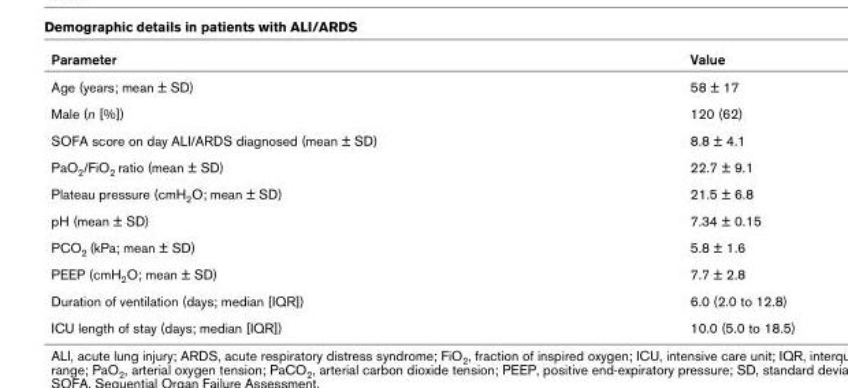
<table><thead><tr><td>Parameter</td><td>Value</td></tr></thead><tbody><tr><td>Age (years; mean ± SD)</td><td>58 ± 17</td></tr><tr><td>Male (n [%])</td><td>120 (62)</td></tr><tr><td>SOFA score on day ALI/ARDS diagnosed (mean ± SD)</td><td>8.8 ± 4.1</td></tr><tr><td>PaO<sub>2</sub>/FiO<sub>2</sub> ratio (mean ± SD)</td><td>22.7 ± 9.1</td></tr><tr><td>Plateau pressure (cmH<sub>2</sub>O; mean ± SD)</td><td>21.5 ± 6.8</td></tr><tr><td>pH (mean ± SD)</td><td>7.34 ± 0.15</td></tr><tr><td>PCO<sub>2</sub> (kPa; mean ± SD)</td><td>5.8 ± 1.6</td></tr><tr><td>PEEP (cmH<sub>2</sub>O; mean ± SD)</td><td>7.7 ± 2.8</td></tr><tr><td>Duration of ventilation (days; median [IQR])</td><td>6.0 (2.0 to 12.8)</td></tr><tr><td>ICU length of stay (days; median [IQR])</td><td>10.0 (5.0 to 18.5)</td></tr></tbody></table>